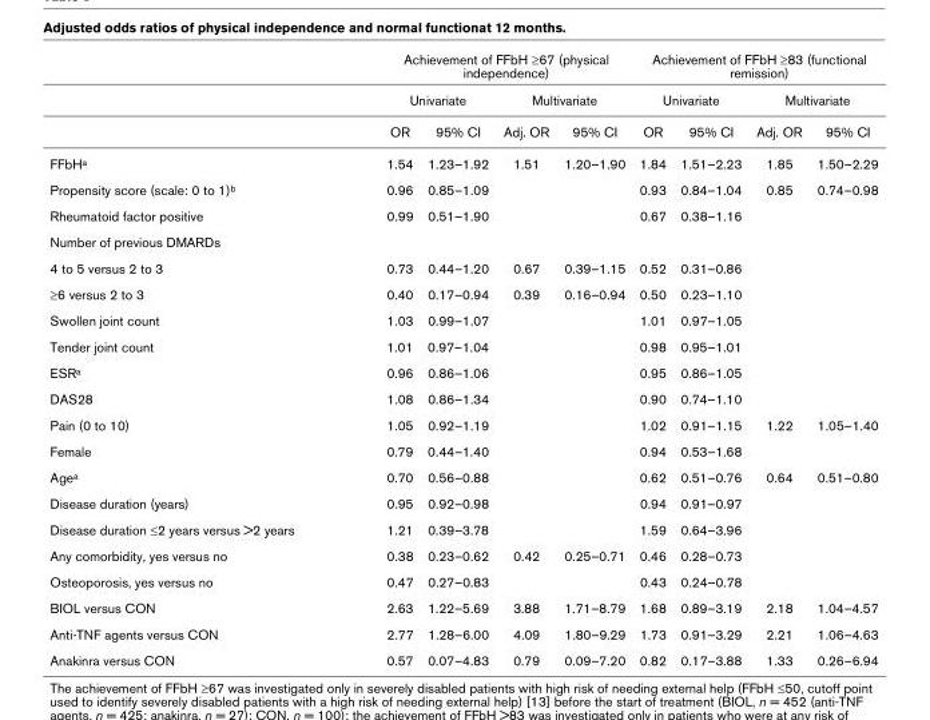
<table><thead><tr><td rowspan="3"></td><td colspan="4">Achievement of FFbH ≥67 (physical independence)</td><td colspan="4">Achievement of FFbH ≥83 (functional remission)</td></tr><tr><td colspan="2">Univariate</td><td colspan="2">Multivariate</td><td colspan="2">Univariate</td><td colspan="2">Multivariate</td></tr><tr><td>OR</td><td>95% CI</td><td>Adj. OR</td><td>95% CI</td><td>OR</td><td>95% CI</td><td>Adj. OR</td><td>95% CI</td></tr></thead><tbody><tr><td>FFbHa</td><td>1.54</td><td>1.23–1.92</td><td>1.51</td><td>1.20–1.90</td><td>1.84</td><td>1.51–2.23</td><td>1.85</td><td>1.50–2.29</td></tr><tr><td>Propensity score (scale: 0 to 1)b</td><td>0.96</td><td>0.85–1.09</td><td></td><td></td><td>0.93</td><td>0.84–1.04</td><td>0.85</td><td>0.74–0.98</td></tr><tr><td>Rheumatoid factor positive</td><td>0.99</td><td>0.51–1.90</td><td></td><td></td><td>0.67</td><td>0.38–1.16</td><td></td><td></td></tr><tr><td colspan="9">Number of previous DMARDs</td></tr><tr><td>4 to 5 versus 2 to 3</td><td>0.73</td><td>0.44–1.20</td><td>0.67</td><td>0.39–1.15</td><td>0.52</td><td>0.31–0.86</td><td></td><td></td></tr><tr><td>≥6 versus 2 to 3</td><td>0.40</td><td>0.17–0.94</td><td>0.39</td><td>0.16–0.94</td><td>0.50</td><td>0.23–1.10</td><td></td><td></td></tr><tr><td>Swollen joint count</td><td>1.03</td><td>0.99–1.07</td><td></td><td></td><td>1.01</td><td>0.97–1.05</td><td></td><td></td></tr><tr><td>Tender joint count</td><td>1.01</td><td>0.97–1.04</td><td></td><td></td><td>0.98</td><td>0.95–1.01</td><td></td><td></td></tr><tr><td>ESRa</td><td>0.96</td><td>0.86–1.06</td><td></td><td></td><td>0.95</td><td>0.86–1.05</td><td></td><td></td></tr><tr><td>DAS28</td><td>1.08</td><td>0.86–1.34</td><td></td><td></td><td>0.90</td><td>0.74–1.10</td><td></td><td></td></tr><tr><td>Pain (0 to 10)</td><td>1.05</td><td>0.92–1.19</td><td></td><td></td><td>1.02</td><td>0.91–1.15</td><td>1.22</td><td>1.05–1.40</td></tr><tr><td>Female</td><td>0.79</td><td>0.44–1.40</td><td></td><td></td><td>0.94</td><td>0.53–1.68</td><td></td><td></td></tr><tr><td>Agea</td><td>0.70</td><td>0.56–0.88</td><td></td><td></td><td>0.62</td><td>0.51–0.76</td><td>0.64</td><td>0.51–0.80</td></tr><tr><td>Disease duration (years)</td><td>0.95</td><td>0.92–0.98</td><td></td><td></td><td>0.94</td><td>0.91–0.97</td><td></td><td></td></tr><tr><td>Disease duration ≤2 years versus &gt;2 years</td><td>1.21</td><td>0.39–3.78</td><td></td><td></td><td>1.59</td><td>0.64–3.96</td><td></td><td></td></tr><tr><td>Any comorbidity, yes versus no</td><td>0.38</td><td>0.23–0.62</td><td>0.42</td><td>0.25–0.71</td><td>0.46</td><td>0.28–0.73</td><td></td><td></td></tr><tr><td>Osteoporosis, yes versus no</td><td>0.47</td><td>0.27–0.83</td><td></td><td></td><td>0.43</td><td>0.24–0.78</td><td></td><td></td></tr><tr><td>BIOL versus CON</td><td>2.63</td><td>1.22–5.69</td><td>3.88</td><td>1.71–8.79</td><td>1.68</td><td>0.89–3.19</td><td>2.18</td><td>1.04–4.57</td></tr><tr><td>Anti-TNF agents versus CON</td><td>2.77</td><td>1.28–6.00</td><td>4.09</td><td>1.80–9.29</td><td>1.73</td><td>0.91–3.29</td><td>2.21</td><td>1.06–4.63</td></tr><tr><td>Anakinra versus CON</td><td>0.57</td><td>0.07–4.83</td><td>0.79</td><td>0.09–7.20</td><td>0.82</td><td>0.17–3.88</td><td>1.33</td><td>0.26–6.94</td></tr></tbody></table>